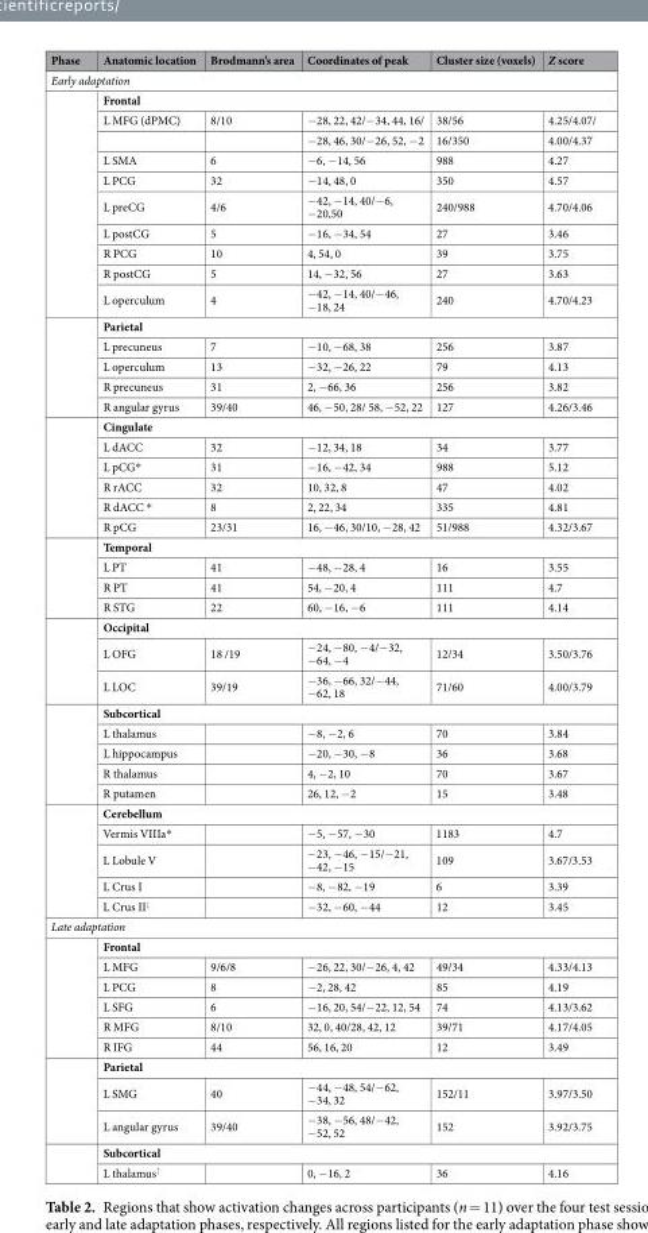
<table><thead><tr><td>Phase</td><td>Anatomic location</td><td>Brodmann’s area</td><td>Coordinates of peak</td><td>Cluster size (voxels)</td><td>Z score</td></tr></thead><tbody><tr><td colspan="6">Early adaptation</td></tr><tr><td rowspan="10"></td><td colspan="5">Frontal</td></tr><tr><td>L MFG (dPMC)</td><td>8/10</td><td>−28, 22, 42/−34, 44, 16/</td><td>38/56</td><td>4.25/4.07/</td></tr><tr><td></td><td></td><td>−28, 46, 30/−26, 52, −2</td><td>16/350</td><td>4.00/4.37</td></tr><tr><td>L SMA</td><td>6</td><td>−6, −14, 56</td><td>988</td><td>4.27</td></tr><tr><td>L PCG</td><td>32</td><td>−14, 48, 0</td><td>350</td><td>4.57</td></tr><tr><td>L preCG</td><td>4/6</td><td>−42, −14, 40/−6, −20,50</td><td>240/988</td><td>4.70/4.06</td></tr><tr><td>L postCG</td><td>5</td><td>−16, −34, 54</td><td>27</td><td>3.46</td></tr><tr><td>R PCG</td><td>10</td><td>4, 54, 0</td><td>39</td><td>3.75</td></tr><tr><td>R postCG</td><td>5</td><td>14, −32, 56</td><td>27</td><td>3.63</td></tr><tr><td>L operculum</td><td>4</td><td>−42, −14, 40/−46, −18, 24</td><td>240</td><td>4.70/4.23</td></tr><tr><td rowspan="5"></td><td colspan="5">Parietal</td></tr><tr><td>L precuneus</td><td>7</td><td>−10, −68, 38</td><td>256</td><td>3.87</td></tr><tr><td>L operculum</td><td>13</td><td>−32, −26, 22</td><td>79</td><td>4.13</td></tr><tr><td>R precuneus</td><td>31</td><td>2, −66, 36</td><td>256</td><td>3.82</td></tr><tr><td>R angular gyrus</td><td>39/40</td><td>46, −50, 28/ 58, −52, 22</td><td>127</td><td>4.26/3.46</td></tr><tr><td rowspan="6"></td><td colspan="5">Cingulate</td></tr><tr><td>L dACC</td><td>32</td><td>−12, 34, 18</td><td>34</td><td>3.77</td></tr><tr><td>L pCG*</td><td>31</td><td>−16, −42, 34</td><td>988</td><td>5.12</td></tr><tr><td>R rACC</td><td>32</td><td>10, 32, 8</td><td>47</td><td>4.02</td></tr><tr><td>R dACC *</td><td>8</td><td>2, 22, 34</td><td>335</td><td>4.81</td></tr><tr><td>R pCG</td><td>23/31</td><td>16, −46, 30/10, −28, 42</td><td>51/988</td><td>4.32/3.67</td></tr><tr><td rowspan="4"></td><td colspan="5">Temporal</td></tr><tr><td>L PT</td><td>41</td><td>−48, −28, 4</td><td>16</td><td>3.55</td></tr><tr><td>R PT</td><td>41</td><td>54, −20, 4</td><td>111</td><td>4.7</td></tr><tr><td>R STG</td><td>22</td><td>60, −16, −6</td><td>111</td><td>4.14</td></tr><tr><td rowspan="3"></td><td colspan="5">Occipital</td></tr><tr><td>L OFG</td><td>18 /19</td><td>−24, −80, −4/−32, −64, −4</td><td>12/34</td><td>3.50/3.76</td></tr><tr><td>L LOC</td><td>39/19</td><td>−36, −66, 32/−44, −62, 18</td><td>71/60</td><td>4.00/3.79</td></tr><tr><td rowspan="5"></td><td colspan="5">Subcortical</td></tr><tr><td>L thalamus</td><td></td><td>−8, −2, 6</td><td>70</td><td>3.84</td></tr><tr><td>L hippocampus</td><td></td><td>−20, −30, −8</td><td>36</td><td>3.68</td></tr><tr><td>R thalamus</td><td></td><td>4, −2, 10</td><td>70</td><td>3.67</td></tr><tr><td>R putamen</td><td></td><td>26, 12, −2</td><td>15</td><td>3.48</td></tr><tr><td rowspan="5"></td><td colspan="5">Cerebellum</td></tr><tr><td>Vermis VIIIa*</td><td></td><td>−5, −57, −30</td><td>1183</td><td>4.7</td></tr><tr><td>L Lobule V</td><td></td><td>−23, −46, −15/−21, −42, −15</td><td>109</td><td>3.67/3.53</td></tr><tr><td>L Crus I</td><td></td><td>−8, −82, −19</td><td>6</td><td>3.39</td></tr><tr><td>L Crus II<sup>↓</sup></td><td></td><td>−32, −60, −44</td><td>12</td><td>3.45</td></tr><tr><td colspan="6">Late adaptation</td></tr><tr><td rowspan="6"></td><td colspan="5">Frontal</td></tr><tr><td>L MFG</td><td>9/6/8</td><td>−26, 22, 30/−26, 4, 42</td><td>49/34</td><td>4.33/4.13</td></tr><tr><td>L PCG</td><td>8</td><td>−2, 28, 42</td><td>85</td><td>4.19</td></tr><tr><td>L SFG</td><td>6</td><td>−16, 20, 54/−22, 12, 54</td><td>74</td><td>4.13/3.62</td></tr><tr><td>R MFG</td><td>8/10</td><td>32, 0, 40/28, 42, 12</td><td>39/71</td><td>4.17/4.05</td></tr><tr><td>R IFG</td><td>44</td><td>56, 16, 20</td><td>12</td><td>3.49</td></tr><tr><td rowspan="3"></td><td colspan="5">Parietal</td></tr><tr><td>L SMG</td><td>40</td><td>−44, −48, 54/−62, −34, 32</td><td>152/11</td><td>3.97/3.50</td></tr><tr><td>L angular gyrus</td><td>39/40</td><td>−38, −56, 48/−42, −52, 52</td><td>152</td><td>3.92/3.75</td></tr><tr><td rowspan="2"></td><td colspan="5">Subcortical</td></tr><tr><td>L thalamus<sup>↑</sup></td><td></td><td>0, −16, 2</td><td>36</td><td>4.16</td></tr></tbody></table>